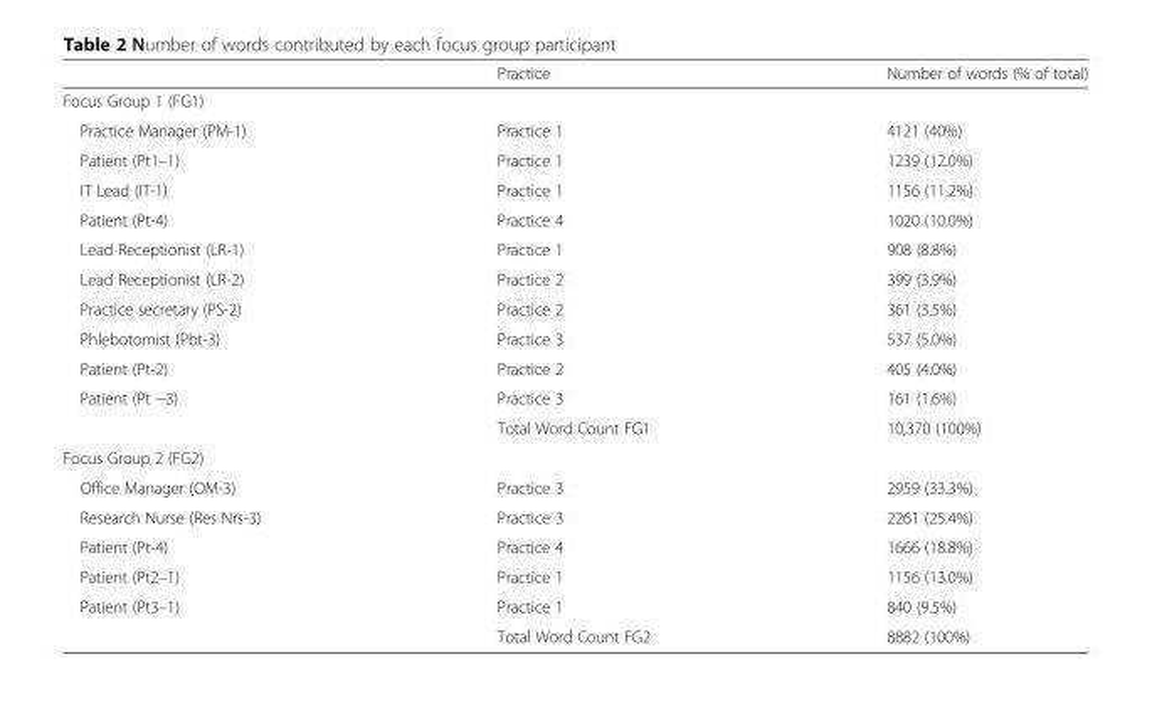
<table><thead><tr><td></td><td>Practice</td><td>Number of words (% of total)</td></tr></thead><tbody><tr><td colspan="3">Focus Group 1 (FG1)</td></tr><tr><td>Practice Manager (PM-1)</td><td>Practice 1</td><td>4121 (40%)</td></tr><tr><td>Patient (Pt1–1)</td><td>Practice 1</td><td>1239 (12.0%)</td></tr><tr><td>IT Lead (IT-1)</td><td>Practice 1</td><td>1156 (11.2%)</td></tr><tr><td>Patient (Pt-4)</td><td>Practice 4</td><td>1020 (10.0%)</td></tr><tr><td>Lead Receptionist (LR-1)</td><td>Practice 1</td><td>908 (8.8%)</td></tr><tr><td>Lead Receptionist (LR-2)</td><td>Practice 2</td><td>399 (3.9%)</td></tr><tr><td>Practice secretary (PS-2)</td><td>Practice 2</td><td>361 (3.5%)</td></tr><tr><td>Phlebotomist (Pbt-3)</td><td>Practice 3</td><td>537 (5.0%)</td></tr><tr><td>Patient (Pt-2)</td><td>Practice 2</td><td>405 (4.0%)</td></tr><tr><td rowspan="2">Patient (Pt −3)</td><td>Practice 3</td><td>161 (1.6%)</td></tr><tr><td>Total Word Count FG1</td><td>10,370 (100%)</td></tr><tr><td colspan="3">Focus Group 2 (FG2)</td></tr><tr><td>Office Manager (OM-3)</td><td>Practice 3</td><td>2959 (33.3%)</td></tr><tr><td>Research Nurse (Res Nrs-3)</td><td>Practice 3</td><td>2261 (25.4%)</td></tr><tr><td>Patient (Pt-4)</td><td>Practice 4</td><td>1666 (18.8%)</td></tr><tr><td>Patient (Pt2–1)</td><td>Practice 1</td><td>1156 (13.0%)</td></tr><tr><td rowspan="2">Patient (Pt3–1)</td><td>Practice 1</td><td>840 (9.5%)</td></tr><tr><td>Total Word Count FG2</td><td>8882 (100%)</td></tr></tbody></table>